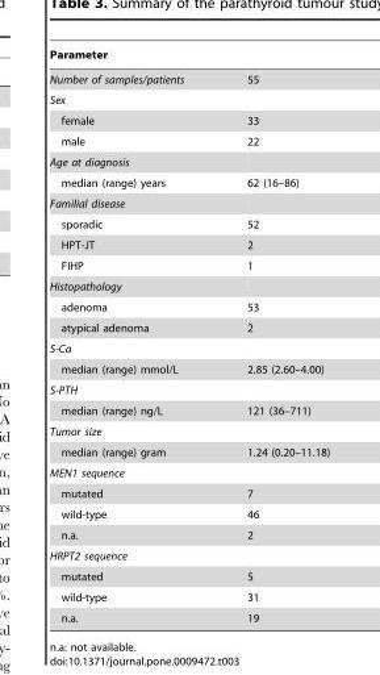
<table><thead><tr><td>Parameter</td><td></td></tr></thead><tbody><tr><td>Number of samples/patients</td><td>55</td></tr><tr><td colspan="2">Sex</td></tr><tr><td>female</td><td>33</td></tr><tr><td>male</td><td>22</td></tr><tr><td colspan="2">Age at diagnosis</td></tr><tr><td>median (range) years</td><td>62 (16–86)</td></tr><tr><td colspan="2">Familial disease</td></tr><tr><td>sporadic</td><td>52</td></tr><tr><td>HPT-JT</td><td>2</td></tr><tr><td>FIHP</td><td>1</td></tr><tr><td colspan="2">Histopathology</td></tr><tr><td>adenoma</td><td>53</td></tr><tr><td>atypical adenoma</td><td>2</td></tr><tr><td colspan="2">S-Ca</td></tr><tr><td>median (range) mmol/L</td><td>2.85 (2.60–4.00)</td></tr><tr><td colspan="2">S-PTH</td></tr><tr><td>median (range) ng/L</td><td>121 (36–711)</td></tr><tr><td colspan="2">Tumor size</td></tr><tr><td>median (range) gram</td><td>1.24 (0.20–11.18)</td></tr><tr><td colspan="2">MEN1 sequence</td></tr><tr><td>mutated</td><td>7</td></tr><tr><td>wild-type</td><td>46</td></tr><tr><td>n.a.</td><td>2</td></tr><tr><td colspan="2">HRPT2 sequence</td></tr><tr><td>mutated</td><td>5</td></tr><tr><td>wild-type</td><td>31</td></tr><tr><td>n.a.</td><td>19</td></tr></tbody></table>